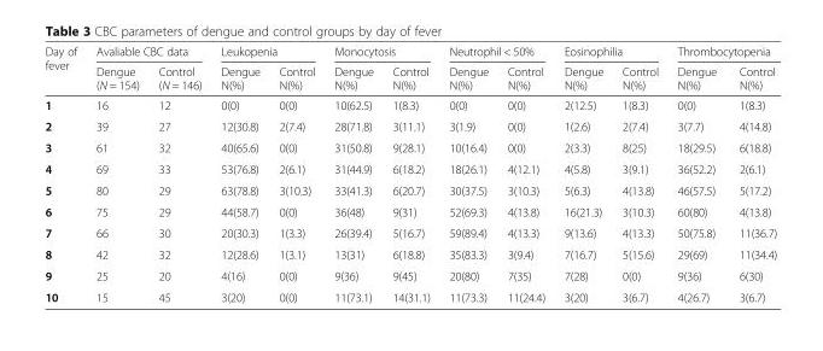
<table><thead><tr><td rowspan="2">Day of fever</td><td colspan="2">Avaliable CBC data</td><td colspan="2">Leukopenia</td><td colspan="2">Monocytosis</td><td colspan="2">Neutrophil &lt; 50%</td><td colspan="2">Eosinophilia</td><td colspan="2">Thrombocytopenia</td></tr><tr><td>Dengue (N = 154)</td><td>Control (N = 146)</td><td>Dengue N(%)</td><td>Control N(%)</td><td>Dengue N(%)</td><td>Control N(%)</td><td>Dengue N(%)</td><td>Control N(%)</td><td>Dengue N(%)</td><td>Control N(%)</td><td>Dengue N(%)</td><td>Control N(%)</td></tr></thead><tbody><tr><td>1</td><td>16</td><td>12</td><td>0(0)</td><td>0(0)</td><td>10(62.5)</td><td>1(8.3)</td><td>0(0)</td><td>0(0)</td><td>2(12.5)</td><td>1(8.3)</td><td>0(0)</td><td>1(8.3)</td></tr><tr><td>2</td><td>39</td><td>27</td><td>12(30.8)</td><td>2(7.4)</td><td>28(71.8)</td><td>3(11.1)</td><td>3(1.9)</td><td>0(0)</td><td>1(2.6)</td><td>2(7.4)</td><td>3(7.7)</td><td>4(14.8)</td></tr><tr><td>3</td><td>61</td><td>32</td><td>40(65.6)</td><td>0(0)</td><td>31(50.8)</td><td>9(28.1)</td><td>10(16.4)</td><td>0(0)</td><td>2(3.3)</td><td>8(25)</td><td>18(29.5)</td><td>6(18.8)</td></tr><tr><td>4</td><td>69</td><td>33</td><td>53(76.8)</td><td>2(6.1)</td><td>31(44.9)</td><td>6(18.2)</td><td>18(26.1)</td><td>4(12.1)</td><td>4(5.8)</td><td>3(9.1)</td><td>36(52.2)</td><td>2(6.1)</td></tr><tr><td>5</td><td>80</td><td>29</td><td>63(78.8)</td><td>3(10.3)</td><td>33(41.3)</td><td>6(20.7)</td><td>30(37.5)</td><td>3(10.3)</td><td>5(6.3)</td><td>4(13.8)</td><td>46(57.5)</td><td>5(17.2)</td></tr><tr><td>6</td><td>75</td><td>29</td><td>44(58.7)</td><td>0(0)</td><td>36(48)</td><td>9(31)</td><td>52(69.3)</td><td>4(13.8)</td><td>16(21.3)</td><td>3(10.3)</td><td>60(80)</td><td>4(13.8)</td></tr><tr><td>7</td><td>66</td><td>30</td><td>20(30.3)</td><td>1(3.3)</td><td>26(39.4)</td><td>5(16.7)</td><td>59(89.4)</td><td>4(13.3)</td><td>9(13.6)</td><td>4(13.3)</td><td>50(75.8)</td><td>11(36.7)</td></tr><tr><td>8</td><td>42</td><td>32</td><td>12(28.6)</td><td>1(3.1)</td><td>13(31)</td><td>6(18.8)</td><td>35(83.3)</td><td>3(9.4)</td><td>7(16.7)</td><td>5(15.6)</td><td>29(69)</td><td>11(34.4)</td></tr><tr><td>9</td><td>25</td><td>20</td><td>4(16)</td><td>0(0)</td><td>9(36)</td><td>9(45)</td><td>20(80)</td><td>7(35)</td><td>7(28)</td><td>0(0)</td><td>9(36)</td><td>6(30)</td></tr><tr><td>10</td><td>15</td><td>45</td><td>3(20)</td><td>0(0)</td><td>11(73.1)</td><td>14(31.1)</td><td>11(73.3)</td><td>11(24.4)</td><td>3(20)</td><td>3(6.7)</td><td>4(26.7)</td><td>3(6.7)</td></tr></tbody></table>